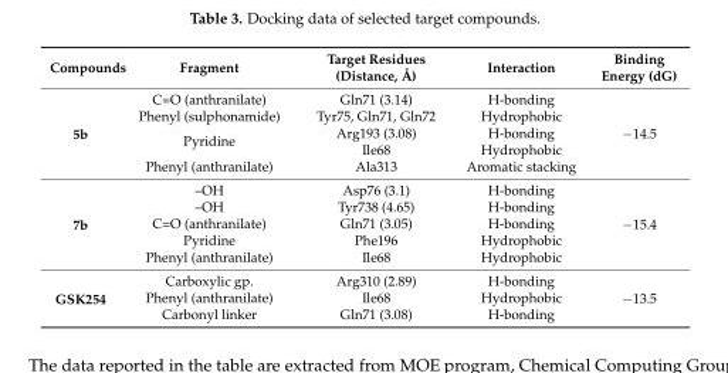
<table><thead><tr><td>Compounds</td><td>Fragment</td><td>Target Residues (Distance, Å)</td><td>Interaction</td><td>Binding Energy (dG)</td></tr></thead><tbody><tr><td rowspan="5">5b</td><td>C=O (anthranilate)</td><td>Gln71 (3.14)</td><td>H-bonding</td><td rowspan="5">−14.5</td></tr><tr><td>Phenyl (sulphonamide)</td><td>Tyr75, Gln71, Gln72</td><td>Hydrophobic</td></tr><tr><td rowspan="2">Pyridine</td><td>Arg193 (3.08)</td><td>H-bonding</td></tr><tr><td>Ile68</td><td>Hydrophobic</td></tr><tr><td>Phenyl (anthranilate)</td><td>Ala313</td><td>Aromatic stacking</td></tr><tr><td rowspan="5">7b</td><td>–OH</td><td>Asp76 (3.1)</td><td>H-bonding</td><td rowspan="5">−15.4</td></tr><tr><td>–OH</td><td>Tyr738 (4.65)</td><td>H-bonding</td></tr><tr><td>C=O (anthranilate)</td><td>Gln71 (3.05)</td><td>H-bonding</td></tr><tr><td>Pyridine</td><td>Phe196</td><td>Hydrophobic</td></tr><tr><td>Phenyl (anthranilate)</td><td>Ile68</td><td>Hydrophobic</td></tr><tr><td rowspan="3">GSK254</td><td>Carboxylic gp.</td><td>Arg310 (2.89)</td><td>H-bonding</td><td rowspan="3">−13.5</td></tr><tr><td>Phenyl (anthranilate)</td><td>Ile68</td><td>Hydrophobic</td></tr><tr><td>Carbonyl linker</td><td>Gln71 (3.08)</td><td>H-bonding</td></tr></tbody></table>